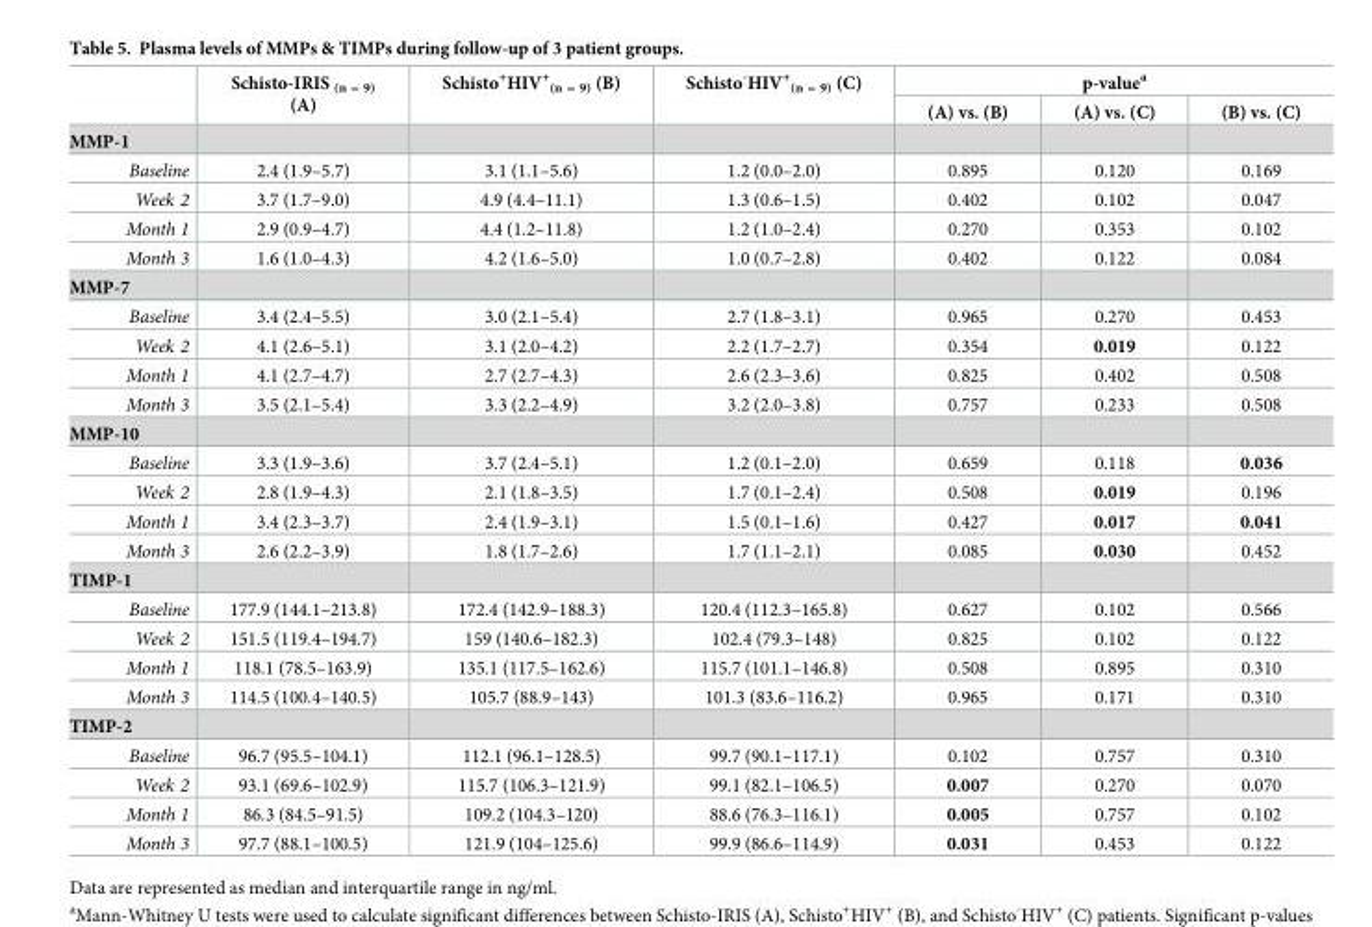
<table><thead><tr><td rowspan="2"></td><td rowspan="2">Schisto-IRIS <sub>(n = 9)</sub> (A)</td><td rowspan="2">Schisto<sup>+</sup>HIV<sup>+</sup> <sub>(n = 9)</sub> (B)</td><td rowspan="2">Schisto<sup>-</sup>HIV<sup>+</sup> <sub>(n = 9)</sub> (C)</td><td colspan="3">p-value<sup>a</sup></td></tr><tr><td>(A) vs. (B)</td><td>(A) vs. (C)</td><td>(B) vs. (C)</td></tr></thead><tbody><tr><td colspan="7">MMP-1</td></tr><tr><td>Baseline</td><td>2.4 (1.9–5.7)</td><td>3.1 (1.1–5.6)</td><td>1.2 (0.0–2.0)</td><td>0.895</td><td>0.120</td><td>0.169</td></tr><tr><td>Week 2</td><td>3.7 (1.7–9.0)</td><td>4.9 (4.4–11.1)</td><td>1.3 (0.6–1.5)</td><td>0.402</td><td>0.102</td><td>0.047</td></tr><tr><td>Month 1</td><td>2.9 (0.9–4.7)</td><td>4.4 (1.2–11.8)</td><td>1.2 (1.0–2.4)</td><td>0.270</td><td>0.353</td><td>0.102</td></tr><tr><td>Month 3</td><td>1.6 (1.0–4.3)</td><td>4.2 (1.6–5.0)</td><td>1.0 (0.7–2.8)</td><td>0.402</td><td>0.122</td><td>0.084</td></tr><tr><td colspan="7">MMP-7</td></tr><tr><td>Baseline</td><td>3.4 (2.4–5.5)</td><td>3.0 (2.1–5.4)</td><td>2.7 (1.8–3.1)</td><td>0.965</td><td>0.270</td><td>0.453</td></tr><tr><td>Week 2</td><td>4.1 (2.6–5.1)</td><td>3.1 (2.0–4.2)</td><td>2.2 (1.7–2.7)</td><td>0.354</td><td>0.019</td><td>0.122</td></tr><tr><td>Month 1</td><td>4.1 (2.7–4.7)</td><td>2.7 (2.7–4.3)</td><td>2.6 (2.3–3.6)</td><td>0.825</td><td>0.402</td><td>0.508</td></tr><tr><td>Month 3</td><td>3.5 (2.1–5.4)</td><td>3.3 (2.2–4.9)</td><td>3.2 (2.0–3.8)</td><td>0.757</td><td>0.233</td><td>0.508</td></tr><tr><td colspan="7">MMP-10</td></tr><tr><td>Baseline</td><td>3.3 (1.9–3.6)</td><td>3.7 (2.4–5.1)</td><td>1.2 (0.1–2.0)</td><td>0.659</td><td>0.118</td><td>0.036</td></tr><tr><td>Week 2</td><td>2.8 (1.9–4.3)</td><td>2.1 (1.8–3.5)</td><td>1.7 (0.1–2.4)</td><td>0.508</td><td>0.019</td><td>0.196</td></tr><tr><td>Month 1</td><td>3.4 (2.3–3.7)</td><td>2.4 (1.9–3.1)</td><td>1.5 (0.1–1.6)</td><td>0.427</td><td>0.017</td><td>0.041</td></tr><tr><td>Month 3</td><td>2.6 (2.2–3.9)</td><td>1.8 (1.7–2.6)</td><td>1.7 (1.1–2.1)</td><td>0.085</td><td>0.030</td><td>0.452</td></tr><tr><td colspan="7">TIMP-1</td></tr><tr><td>Baseline</td><td>177.9 (144.1–213.8)</td><td>172.4 (142.9–188.3)</td><td>120.4 (112.3–165.8)</td><td>0.627</td><td>0.102</td><td>0.566</td></tr><tr><td>Week 2</td><td>151.5 (119.4–194.7)</td><td>159 (140.6–182.3)</td><td>102.4 (79.3–148)</td><td>0.825</td><td>0.102</td><td>0.122</td></tr><tr><td>Month 1</td><td>118.1 (78.5–163.9)</td><td>135.1 (117.5–162.6)</td><td>115.7 (101.1–146.8)</td><td>0.508</td><td>0.895</td><td>0.310</td></tr><tr><td>Month 3</td><td>114.5 (100.4–140.5)</td><td>105.7 (88.9–143)</td><td>101.3 (83.6–116.2)</td><td>0.965</td><td>0.171</td><td>0.310</td></tr><tr><td colspan="7">TIMP-2</td></tr><tr><td>Baseline</td><td>96.7 (95.5–104.1)</td><td>112.1 (96.1–128.5)</td><td>99.7 (90.1–117.1)</td><td>0.102</td><td>0.757</td><td>0.310</td></tr><tr><td>Week 2</td><td>93.1 (69.6–102.9)</td><td>115.7 (106.3–121.9)</td><td>99.1 (82.1–106.5)</td><td>0.007</td><td>0.270</td><td>0.070</td></tr><tr><td>Month 1</td><td>86.3 (84.5–91.5)</td><td>109.2 (104.3–120)</td><td>88.6 (76.3–116.1)</td><td>0.005</td><td>0.757</td><td>0.102</td></tr><tr><td>Month 3</td><td>97.7 (88.1–100.5)</td><td>121.9 (104–125.6)</td><td>99.9 (86.6–114.9)</td><td>0.031</td><td>0.453</td><td>0.122</td></tr></tbody></table>